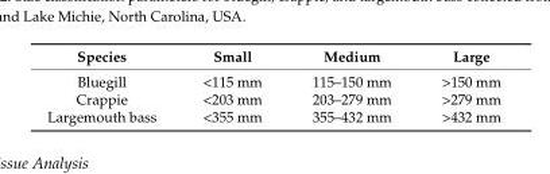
<table><thead><tr><td>Species</td><td>Small</td><td>Medium</td><td>Large</td></tr></thead><tbody><tr><td>Bluegill</td><td>&lt;115 mm</td><td>115–150 mm</td><td>&gt;150 mm</td></tr><tr><td>Crappie</td><td>&lt;203 mm</td><td>203–279 mm</td><td>&gt;279 mm</td></tr><tr><td>Largemouth bass</td><td>&lt;355 mm</td><td>355–432 mm</td><td>&gt;432 mm</td></tr></tbody></table>